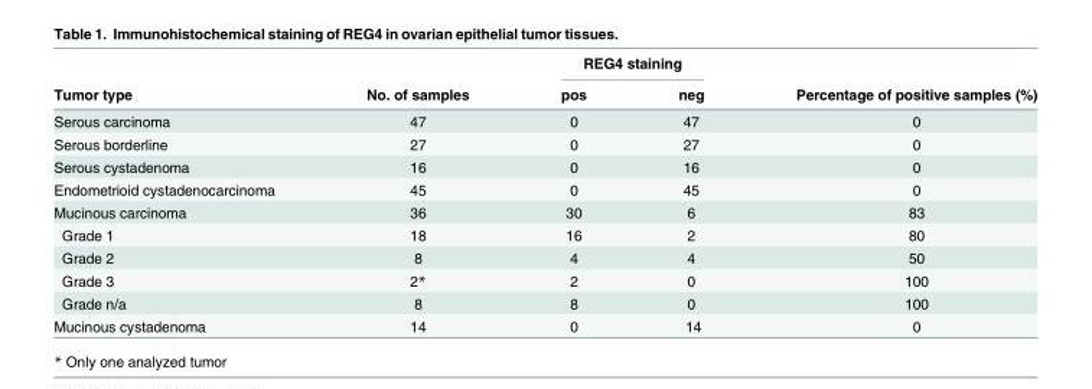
<table><thead><tr><td rowspan="2">Tumor type</td><td rowspan="2">No. of samples</td><td colspan="2">REG4 staining</td><td rowspan="2">Percentage of positive samples (%)</td></tr><tr><td>pos</td><td>neg</td></tr></thead><tbody><tr><td>Serous carcinoma</td><td>47</td><td>0</td><td>47</td><td>0</td></tr><tr><td>Serous borderline</td><td>27</td><td>0</td><td>27</td><td>0</td></tr><tr><td>Serous cystadenoma</td><td>16</td><td>0</td><td>16</td><td>0</td></tr><tr><td>Endometrioid cystadenocarcinoma</td><td>45</td><td>0</td><td>45</td><td>0</td></tr><tr><td>Mucinous carcinoma</td><td>36</td><td>30</td><td>6</td><td>83</td></tr><tr><td>Grade 1</td><td>18</td><td>16</td><td>2</td><td>80</td></tr><tr><td>Grade 2</td><td>8</td><td>4</td><td>4</td><td>50</td></tr><tr><td>Grade 3</td><td>2*</td><td>2</td><td>0</td><td>100</td></tr><tr><td>Grade n/a</td><td>8</td><td>8</td><td>0</td><td>100</td></tr><tr><td>Mucinous cystadenoma</td><td>14</td><td>0</td><td>14</td><td>0</td></tr></tbody></table>